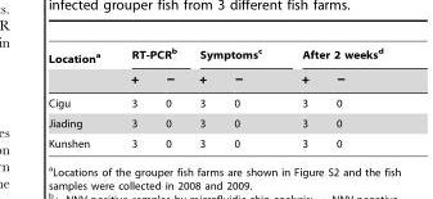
<table><thead><tr><td rowspan="2">Location<sup>a</sup></td><td colspan="2">RT-PCR<sup>b</sup></td><td colspan="2">Symptoms<sup>c</sup></td><td colspan="2">After 2 weeks<sup>d</sup></td></tr><tr><td>+</td><td>−</td><td>+</td><td>−</td><td>+</td><td>−</td></tr></thead><tbody><tr><td>Cigu</td><td>3</td><td>0</td><td>3</td><td>0</td><td>3</td><td>0</td></tr><tr><td>Jiading</td><td>3</td><td>0</td><td>3</td><td>0</td><td>3</td><td>0</td></tr><tr><td>Kunshen</td><td>3</td><td>0</td><td>3</td><td>0</td><td>3</td><td>0</td></tr></tbody></table>